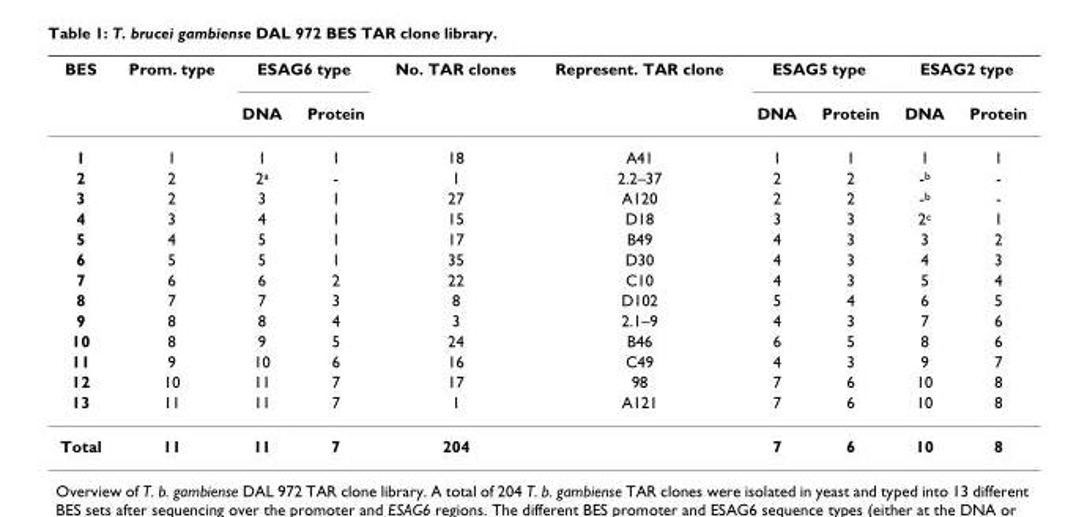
<table><thead><tr><td rowspan="2">BES</td><td rowspan="2">Prom. type</td><td colspan="2">ESAG6 type</td><td rowspan="2">No. TAR clones</td><td rowspan="2">Represent. TAR clone</td><td colspan="2">ESAG5 type</td><td colspan="2">ESAG2 type</td></tr><tr><td>DNA</td><td>Protein</td><td>DNA</td><td>Protein</td><td>DNA</td><td>Protein</td></tr></thead><tbody><tr><td>1</td><td>1</td><td>1</td><td>1</td><td>18</td><td>A41</td><td>1</td><td>1</td><td>1</td><td>1</td></tr><tr><td>2</td><td>2</td><td>2<sup>a</sup></td><td>-</td><td>1</td><td>2.2–37</td><td>2</td><td>2</td><td>-<sup>b</sup></td><td>-</td></tr><tr><td>3</td><td>2</td><td>3</td><td>1</td><td>27</td><td>A120</td><td>2</td><td>2</td><td>-<sup>b</sup></td><td>-</td></tr><tr><td>4</td><td>3</td><td>4</td><td>1</td><td>15</td><td>D18</td><td>3</td><td>3</td><td>2<sup>c</sup></td><td>1</td></tr><tr><td>5</td><td>4</td><td>5</td><td>1</td><td>17</td><td>B49</td><td>4</td><td>3</td><td>3</td><td>2</td></tr><tr><td>6</td><td>5</td><td>5</td><td>1</td><td>35</td><td>D30</td><td>4</td><td>3</td><td>4</td><td>3</td></tr><tr><td>7</td><td>6</td><td>6</td><td>2</td><td>22</td><td>C10</td><td>4</td><td>3</td><td>5</td><td>4</td></tr><tr><td>8</td><td>7</td><td>7</td><td>3</td><td>8</td><td>D102</td><td>5</td><td>4</td><td>6</td><td>5</td></tr><tr><td>9</td><td>8</td><td>8</td><td>4</td><td>3</td><td>2.1–9</td><td>4</td><td>3</td><td>7</td><td>6</td></tr><tr><td>10</td><td>8</td><td>9</td><td>5</td><td>24</td><td>B46</td><td>6</td><td>5</td><td>8</td><td>6</td></tr><tr><td>11</td><td>9</td><td>10</td><td>6</td><td>16</td><td>C49</td><td>4</td><td>3</td><td>9</td><td>7</td></tr><tr><td>12</td><td>10</td><td>11</td><td>7</td><td>17</td><td>98</td><td>7</td><td>6</td><td>10</td><td>8</td></tr><tr><td>13</td><td>11</td><td>11</td><td>7</td><td>1</td><td>A121</td><td>7</td><td>6</td><td>10</td><td>8</td></tr><tr><td>Total</td><td>11</td><td>11</td><td>7</td><td>204</td><td></td><td>7</td><td>6</td><td>10</td><td>8</td></tr></tbody></table>